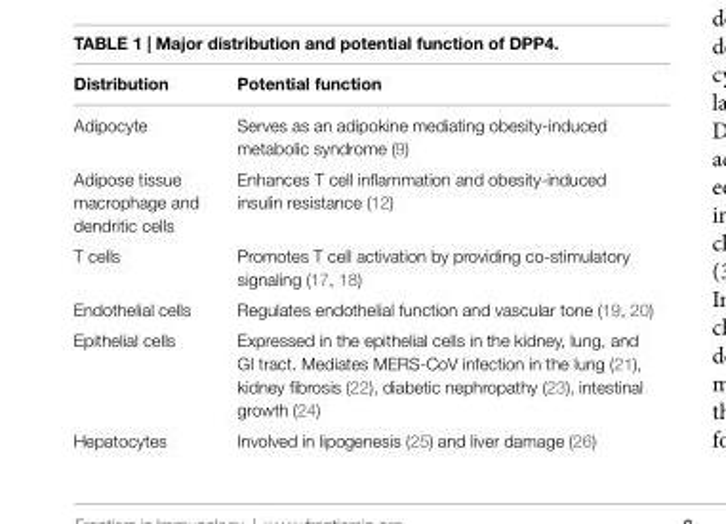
<table><thead><tr><td>Distribution</td><td>Potential function</td></tr></thead><tbody><tr><td>Adipocyte</td><td>Serves as an adipokine mediating obesity-induced metabolic syndrome (9)</td></tr><tr><td>Adipose tissue macrophage and dendritic cells</td><td>Enhances T cell inflammation and obesity-induced insulin resistance (12)</td></tr><tr><td>T cells</td><td>Promotes T cell activation by providing co-stimulatory signaling (17, 18)</td></tr><tr><td>Endothelial cells</td><td>Regulates endothelial function and vascular tone (19, 20)</td></tr><tr><td>Epithelial cells</td><td>Expressed in the epithelial cells in the kidney, lung, and GI tract. Mediates MERS-CoV infection in the lung (21), kidney fibrosis (22), diabetic nephropathy (23), intestinal growth (24)</td></tr><tr><td>Hepatocytes</td><td>Involved in lipogenesis (25) and liver damage (26)</td></tr></tbody></table>